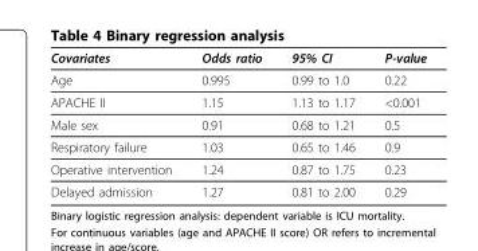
<table><thead><tr><td>Covariates</td><td>Odds ratio</td><td>95% CI</td><td>P-value</td></tr></thead><tbody><tr><td>Age</td><td>0.995</td><td>0.99 to 1.0</td><td>0.22</td></tr><tr><td>APACHE II</td><td>1.15</td><td>1.13 to 1.17</td><td>&lt;0.001</td></tr><tr><td>Male sex</td><td>0.91</td><td>0.68 to 1.21</td><td>0.5</td></tr><tr><td>Respiratory failure</td><td>1.03</td><td>0.65 to 1.46</td><td>0.9</td></tr><tr><td>Operative intervention</td><td>1.24</td><td>0.87 to 1.75</td><td>0.23</td></tr><tr><td>Delayed admission</td><td>1.27</td><td>0.81 to 2.00</td><td>0.29</td></tr></tbody></table>